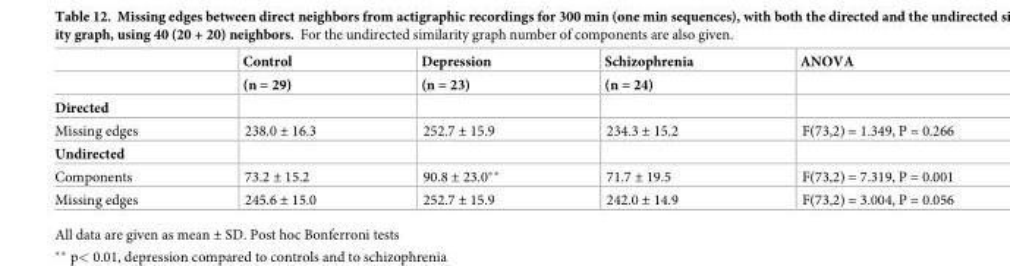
<table><thead><tr><td rowspan="2"></td><td rowspan="2">Control (n = 29)</td><td rowspan="2">Depression (n = 23)</td><td rowspan="2">Schizophrenia (n = 24)</td><td rowspan="2">ANOVA</td></tr><tr></tr></thead><tbody><tr><td colspan="5">Directed</td></tr><tr><td>Missing edges</td><td>238.0 ± 16.3</td><td>252.7 ± 15.9</td><td>234.3 ± 15.2</td><td>F(73,2) = 1.349, P = 0.266</td></tr><tr><td colspan="5">Undirected</td></tr><tr><td>Components</td><td>73.2 ± 15.2</td><td>90.8 ± 23.0**</td><td>71.7 ± 19.5</td><td>F(73,2) = 7.319, P = 0.001</td></tr><tr><td>Missing edges</td><td>245.6 ± 15.0</td><td>252.7 ± 15.9</td><td>242.0 ± 14.9</td><td>F(73,2) = 3.004, P = 0.056</td></tr></tbody></table>